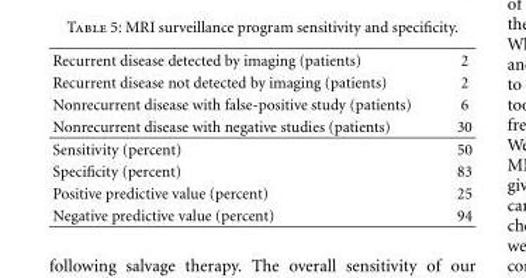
<table><tbody><tr><td>Recurrent disease detected by imaging (patients)</td><td>2</td></tr><tr><td>Recurrent disease not detected by imaging (patients)</td><td>2</td></tr><tr><td>Nonrecurrent disease with false-positive study (patients)</td><td>6</td></tr><tr><td>Nonrecurrent disease with negative studies (patients)</td><td>30</td></tr><tr><td>Sensitivity (percent)</td><td>50</td></tr><tr><td>Specificity (percent)</td><td>83</td></tr><tr><td>Positive predictive value (percent)</td><td>25</td></tr><tr><td>Negative predictive value (percent)</td><td>94</td></tr></tbody></table>